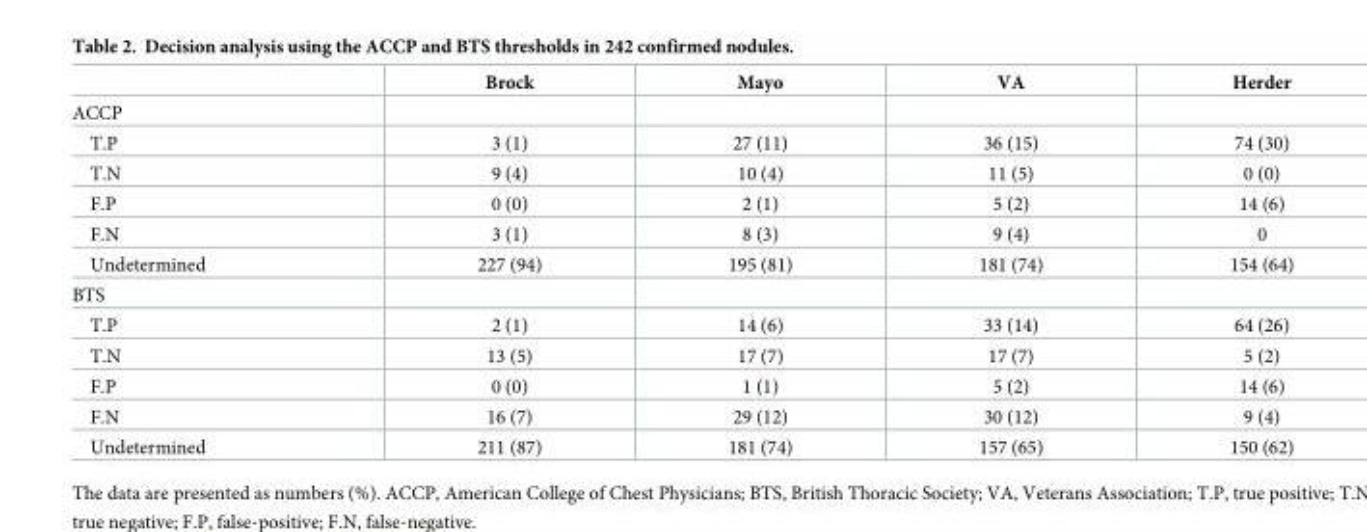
<table><thead><tr><td></td><td>Brock</td><td>Mayo</td><td>VA</td><td>Herder</td></tr></thead><tbody><tr><td colspan="5">ACCP</td></tr><tr><td>T.P</td><td>3 (1)</td><td>27 (11)</td><td>36 (15)</td><td>74 (30)</td></tr><tr><td>T.N</td><td>9 (4)</td><td>10 (4)</td><td>11 (5)</td><td>0 (0)</td></tr><tr><td>F.P</td><td>0 (0)</td><td>2 (1)</td><td>5 (2)</td><td>14 (6)</td></tr><tr><td>F.N</td><td>3 (1)</td><td>8 (3)</td><td>9 (4)</td><td>0</td></tr><tr><td>Undetermined</td><td>227 (94)</td><td>195 (81)</td><td>181 (74)</td><td>154 (64)</td></tr><tr><td colspan="5">BTS</td></tr><tr><td>T.P</td><td>2 (1)</td><td>14 (6)</td><td>33 (14)</td><td>64 (26)</td></tr><tr><td>T.N</td><td>13 (5)</td><td>17 (7)</td><td>17 (7)</td><td>5 (2)</td></tr><tr><td>F.P</td><td>0 (0)</td><td>1 (1)</td><td>5 (2)</td><td>14 (6)</td></tr><tr><td>F.N</td><td>16 (7)</td><td>29 (12)</td><td>30 (12)</td><td>9 (4)</td></tr><tr><td>Undetermined</td><td>211 (87)</td><td>181 (74)</td><td>157 (65)</td><td>150 (62)</td></tr></tbody></table>